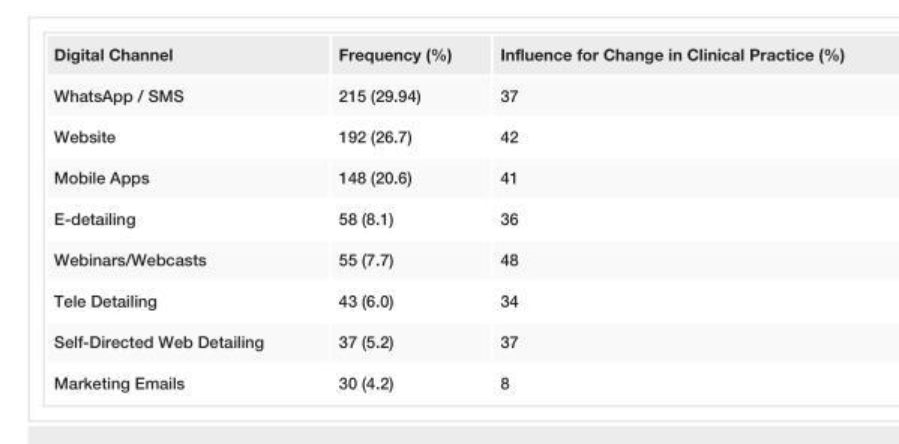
<table><tbody><tr><td>Digital Channel</td><td>Frequency (%)</td><td>Influence for Change in Clinical Practice (%)</td></tr><tr><td>WhatsApp / SMS</td><td>215 (29.94)</td><td>37</td></tr><tr><td>Website</td><td>192 (26.7)</td><td>42</td></tr><tr><td>Mobile Apps</td><td>148 (20.6)</td><td>41</td></tr><tr><td>E-detailing</td><td>58 (8.1)</td><td>36</td></tr><tr><td>Webinars/Webcasts</td><td>55 (7.7)</td><td>48</td></tr><tr><td>Tele Detailing</td><td>43 (6.0)</td><td>34</td></tr><tr><td>Self-Directed Web Detailing</td><td>37 (5.2)</td><td>37</td></tr><tr><td>Marketing Emails</td><td>30 (4.2)</td><td>8</td></tr></tbody></table>